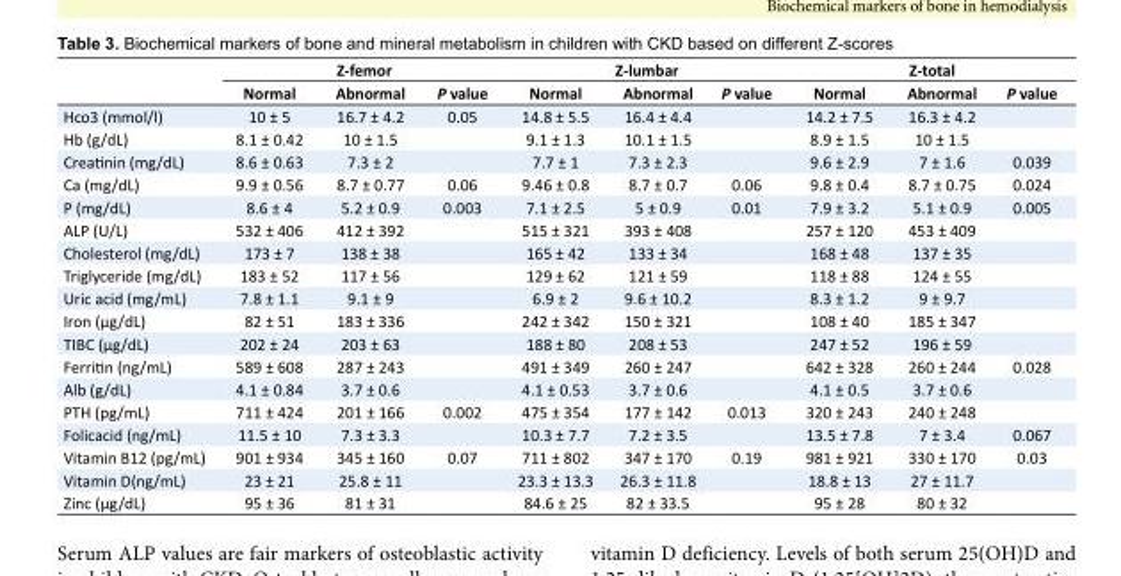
<table><thead><tr><td rowspan="2"></td><td colspan="3">Z-femor</td><td colspan="3">Z-lumbar</td><td colspan="3">Z-total</td></tr><tr><td>Normal</td><td>Abnormal</td><td>P value</td><td>Normal</td><td>Abnormal</td><td>P value</td><td>Normal</td><td>Abnormal</td><td>P value</td></tr></thead><tbody><tr><td>Hco3 (mmol/l)</td><td>10 ± 5</td><td>16.7 ± 4.2</td><td>0.05</td><td>14.8 ± 5.5</td><td>16.4 ± 4.4</td><td></td><td>14.2 ± 7.5</td><td>16.3 ± 4.2</td><td></td></tr><tr><td>Hb (g/dL)</td><td>8.1 ± 0.42</td><td>10 ± 1.5</td><td></td><td>9.1 ± 1.3</td><td>10.1 ± 1.5</td><td></td><td>8.9 ± 1.5</td><td>10 ± 1.5</td><td></td></tr><tr><td>Creatinin (mg/dL)</td><td>8.6 ± 0.63</td><td>7.3 ± 2</td><td></td><td>7.7 ± 1</td><td>7.3 ± 2.3</td><td></td><td>9.6 ± 2.9</td><td>7 ± 1.6</td><td>0.039</td></tr><tr><td>Ca (mg/dL)</td><td>9.9 ± 0.56</td><td>8.7 ± 0.77</td><td>0.06</td><td>9.46 ± 0.8</td><td>8.7 ± 0.7</td><td>0.06</td><td>9.8 ± 0.4</td><td>8.7 ± 0.75</td><td>0.024</td></tr><tr><td>P (mg/dL)</td><td>8.6 ± 4</td><td>5.2 ± 0.9</td><td>0.003</td><td>7.1 ± 2.5</td><td>5 ± 0.9</td><td>0.01</td><td>7.9 ± 3.2</td><td>5.1 ± 0.9</td><td>0.005</td></tr><tr><td>ALP (U/L)</td><td>532 ± 406</td><td>412 ± 392</td><td></td><td>515 ± 321</td><td>393 ± 408</td><td></td><td>257 ± 120</td><td>453 ± 409</td><td></td></tr><tr><td>Cholesterol (mg/dL)</td><td>173 ± 7</td><td>138 ± 38</td><td></td><td>165 ± 42</td><td>133 ± 34</td><td></td><td>168 ± 48</td><td>137 ± 35</td><td></td></tr><tr><td>Triglyceride (mg/dL)</td><td>183 ± 52</td><td>117 ± 56</td><td></td><td>129 ± 62</td><td>121 ± 59</td><td></td><td>118 ± 88</td><td>124 ± 55</td><td></td></tr><tr><td>Uric acid (mg/mL)</td><td>7.8 ± 1.1</td><td>9.1 ± 9</td><td></td><td>6.9 ± 2</td><td>9.6 ± 10.2</td><td></td><td>8.3 ± 1.2</td><td>9 ± 9.7</td><td></td></tr><tr><td>Iron (µg/dL)</td><td>82 ± 51</td><td>183 ± 336</td><td></td><td>242 ± 342</td><td>150 ± 321</td><td></td><td>108 ± 40</td><td>185 ± 347</td><td></td></tr><tr><td>TIBC (µg/dL)</td><td>202 ± 24</td><td>203 ± 63</td><td></td><td>188 ± 80</td><td>208 ± 53</td><td></td><td>247 ± 52</td><td>196 ± 59</td><td></td></tr><tr><td>Ferritin (ng/mL)</td><td>589 ± 608</td><td>287 ± 243</td><td></td><td>491 ± 349</td><td>260 ± 247</td><td></td><td>642 ± 328</td><td>260 ± 244</td><td>0.028</td></tr><tr><td>Alb (g/dL)</td><td>4.1 ± 0.84</td><td>3.7 ± 0.6</td><td></td><td>4.1 ± 0.53</td><td>3.7 ± 0.6</td><td></td><td>4.1 ± 0.5</td><td>3.7 ± 0.6</td><td></td></tr><tr><td>PTH (pg/mL)</td><td>711 ± 424</td><td>201 ± 166</td><td>0.002</td><td>475 ± 354</td><td>177 ± 142</td><td>0.013</td><td>320 ± 243</td><td>240 ± 248</td><td></td></tr><tr><td>Folicacid (ng/mL)</td><td>11.5 ± 10</td><td>7.3 ± 3.3</td><td></td><td>10.3 ± 7.7</td><td>7.2 ± 3.5</td><td></td><td>13.5 ± 7.8</td><td>7 ± 3.4</td><td>0.067</td></tr><tr><td>Vitamin B12 (pg/mL)</td><td>901 ± 934</td><td>345 ± 160</td><td>0.07</td><td>711 ± 802</td><td>347 ± 170</td><td>0.19</td><td>981 ± 921</td><td>330 ± 170</td><td>0.03</td></tr><tr><td>Vitamin D(ng/mL)</td><td>23 ± 21</td><td>25.8 ± 11</td><td></td><td>23.3 ± 13.3</td><td>26.3 ± 11.8</td><td></td><td>18.8 ± 13</td><td>27 ± 11.7</td><td></td></tr><tr><td>Zinc (µg/dL)</td><td>95 ± 36</td><td>81 ± 31</td><td></td><td>84.6 ± 25</td><td>82 ± 33.5</td><td></td><td>95 ± 28</td><td>80 ± 32</td><td></td></tr></tbody></table>